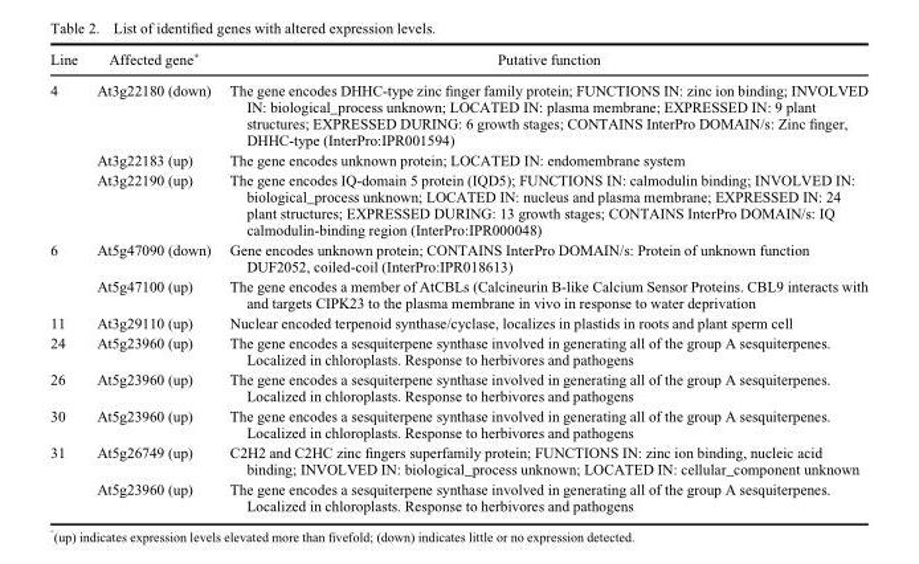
<table><thead><tr><td>Line</td><td>Affected gene*</td><td>Putative function</td></tr></thead><tbody><tr><td rowspan="3">4</td><td>At3g22180 (down)</td><td>The gene encodes DHHC-type zinc finger family protein; FUNCTIONS IN: zinc ion binding; INVOLVED IN: biological_process unknown; LOCATED IN: plasma membrane; EXPRESSED IN: 9 plant structures; EXPRESSED DURING: 6 growth stages; CONTAINS InterPro DOMAIN/s: Zinc finger, DHHC-type (InterPro:IPR001594)</td></tr><tr><td>At3g22183 (up)</td><td>The gene encodes unknown protein; LOCATED IN: endomembrane system</td></tr><tr><td>At3g22190 (up)</td><td>The gene encodes IQ-domain 5 protein (IQD5); FUNCTIONS IN: calmodulin binding; INVOLVED IN: biological_process unknown; LOCATED IN: nucleus and plasma membrane; EXPRESSED IN: 24 plant structures; EXPRESSED DURING: 13 growth stages; CONTAINS InterPro DOMAIN/s: IQ calmodulin-binding region (InterPro:IPR000048)</td></tr><tr><td rowspan="2">6</td><td>At5g47090 (down)</td><td>Gene encodes unknown protein; CONTAINS InterPro DOMAIN/s: Protein of unknown function DUF2052, coiled-coil (InterPro:IPR018613)</td></tr><tr><td>At5g47100 (up)</td><td>The gene encodes a member of AtCBLs (Calcineurin B-like Calcium Sensor Proteins. CBL9 interacts with and targets CIPK23 to the plasma membrane in vivo in response to water deprivation</td></tr><tr><td>11</td><td>At3g29110 (up)</td><td>Nuclear encoded terpenoid synthase/cyclase, localizes in plastids in roots and plant sperm cell</td></tr><tr><td>24</td><td>At5g23960 (up)</td><td>The gene encodes a sesquiterpene synthase involved in generating all of the group A sesquiterpenes. Localized in chloroplasts. Response to herbivores and pathogens</td></tr><tr><td>26</td><td>At5g23960 (up)</td><td>The gene encodes a sesquiterpene synthase involved in generating all of the group A sesquiterpenes. Localized in chloroplasts. Response to herbivores and pathogens</td></tr><tr><td>30</td><td>At5g23960 (up)</td><td>The gene encodes a sesquiterpene synthase involved in generating all of the group A sesquiterpenes. Localized in chloroplasts. Response to herbivores and pathogens</td></tr><tr><td rowspan="2">31</td><td>At5g26749 (up)</td><td>C2H2 and C2HC zinc fingers superfamily protein; FUNCTIONS IN: zinc ion binding, nucleic acid binding; INVOLVED IN: biological_process unknown; LOCATED IN: cellular_component unknown</td></tr><tr><td>At5g23960 (up)</td><td>The gene encodes a sesquiterpene synthase involved in generating all of the group A sesquiterpenes. Localized in chloroplasts. Response to herbivores and pathogens</td></tr></tbody></table>